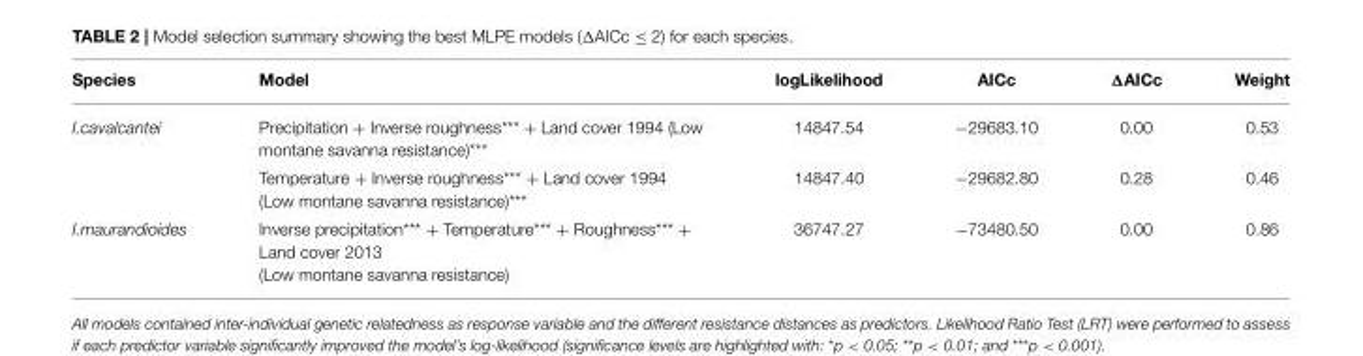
<table><thead><tr><td>Species</td><td>Model</td><td>logLikelihood</td><td>AICc</td><td>ΔAICc</td><td>Weight</td></tr></thead><tbody><tr><td rowspan="2">I.cavalcantei</td><td>Precipitation + Inverse roughness*** + Land cover 1994 (Low montane savanna resistance)***</td><td>14847.54</td><td>−29683.10</td><td>0.00</td><td>0.53</td></tr><tr><td>Temperature + Inverse roughness*** + Land cover 1994 (Low montane savanna resistance)***</td><td>14847.40</td><td>−29682.80</td><td>0.28</td><td>0.46</td></tr><tr><td>I.maurandioides</td><td>Inverse precipitation*** + Temperature*** + Roughness*** + Land cover 2013 (Low montane savanna resistance)</td><td>36747.27</td><td>−73480.50</td><td>0.00</td><td>0.86</td></tr></tbody></table>